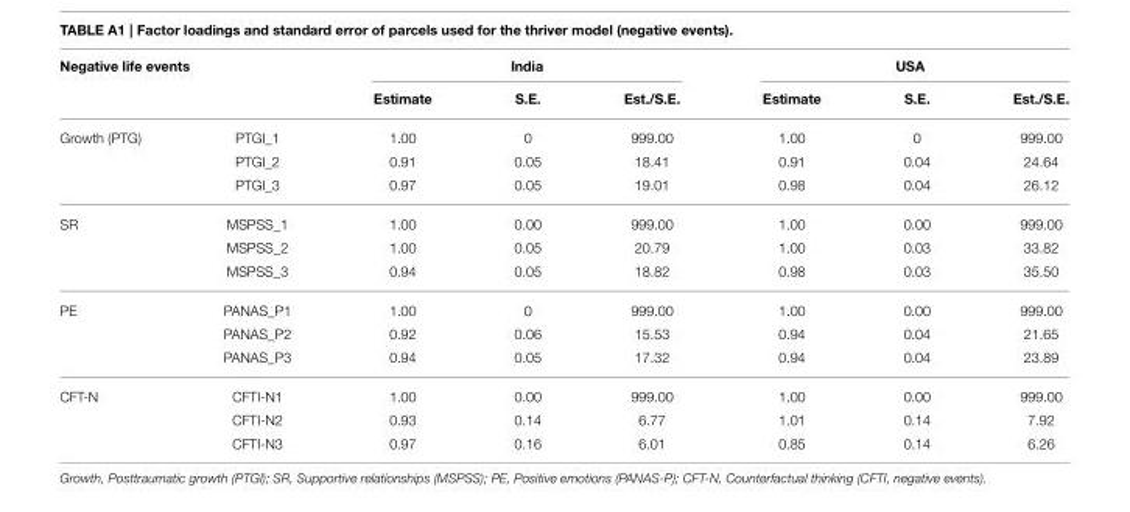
<table><thead><tr><td colspan="2">Negative life events</td><td colspan="3">India</td><td colspan="3">USA</td></tr><tr><td></td><td></td><td>Estimate</td><td>S.E.</td><td>Est./S.E.</td><td>Estimate</td><td>S.E.</td><td>Est./S.E.</td></tr></thead><tbody><tr><td rowspan="3">Growth (PTG)</td><td>PTGI_1</td><td>1.00</td><td>0</td><td>999.00</td><td>1.00</td><td>0</td><td>999.00</td></tr><tr><td>PTGI_2</td><td>0.91</td><td>0.05</td><td>18.41</td><td>0.91</td><td>0.04</td><td>24.64</td></tr><tr><td>PTGI_3</td><td>0.97</td><td>0.05</td><td>19.01</td><td>0.98</td><td>0.04</td><td>26.12</td></tr><tr><td rowspan="3">SR</td><td>MSPSS_1</td><td>1.00</td><td>0.00</td><td>999.00</td><td>1.00</td><td>0.00</td><td>999.00</td></tr><tr><td>MSPSS_2</td><td>1.00</td><td>0.05</td><td>20.79</td><td>1.00</td><td>0.03</td><td>33.82</td></tr><tr><td>MSPSS_3</td><td>0.94</td><td>0.05</td><td>18.82</td><td>0.98</td><td>0.03</td><td>35.50</td></tr><tr><td rowspan="3">PE</td><td>PANAS_P1</td><td>1.00</td><td>0</td><td>999.00</td><td>1.00</td><td>0.00</td><td>999.00</td></tr><tr><td>PANAS_P2</td><td>0.92</td><td>0.06</td><td>15.53</td><td>0.94</td><td>0.04</td><td>21.65</td></tr><tr><td>PANAS_P3</td><td>0.94</td><td>0.05</td><td>17.32</td><td>0.94</td><td>0.04</td><td>23.89</td></tr><tr><td rowspan="3">CFT-N</td><td>CFTI-N1</td><td>1.00</td><td>0.00</td><td>999.00</td><td>1.00</td><td>0.00</td><td>999.00</td></tr><tr><td>CFTI-N2</td><td>0.93</td><td>0.14</td><td>6.77</td><td>1.01</td><td>0.14</td><td>7.92</td></tr><tr><td>CFTI-N3</td><td>0.97</td><td>0.16</td><td>6.01</td><td>0.85</td><td>0.14</td><td>6.26</td></tr></tbody></table>